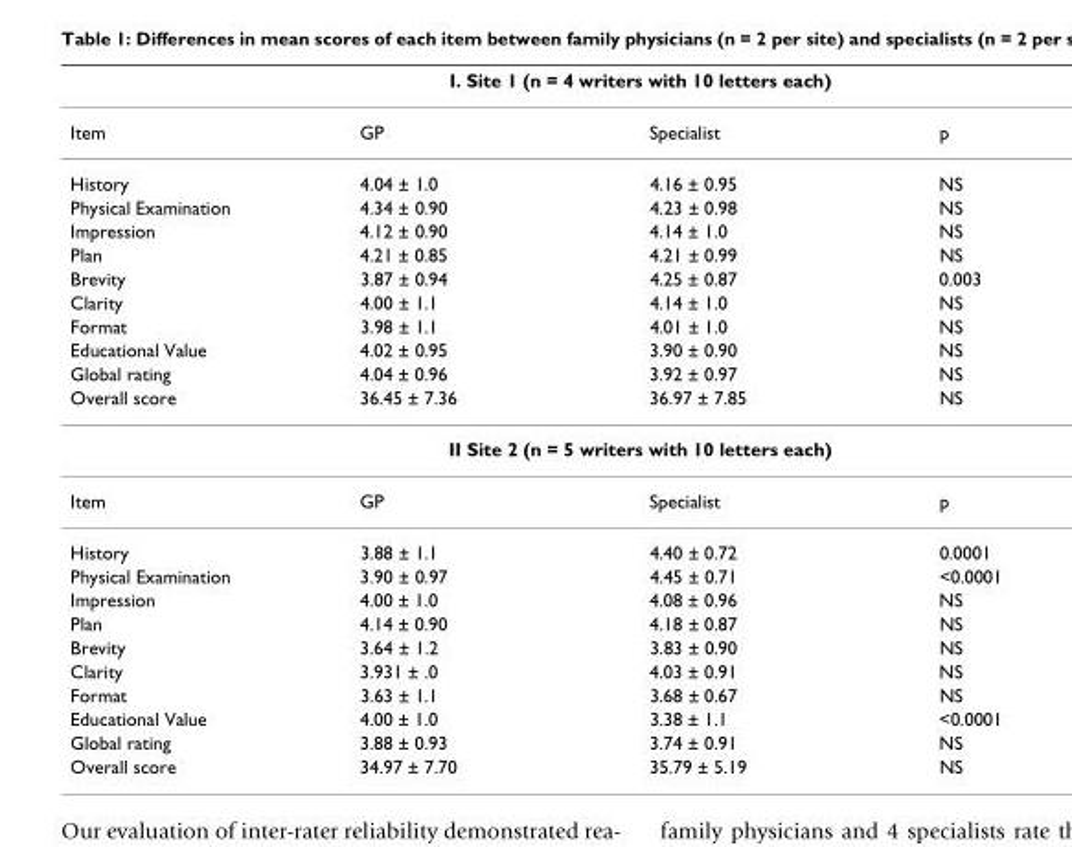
<table><thead><tr><td colspan="4">I. Site 1 (n = 4 writers with 10 letters each)</td></tr><tr><td>Item</td><td>GP</td><td>Specialist</td><td>p</td></tr></thead><tbody><tr><td>History</td><td>4.04 ± 1.0</td><td>4.16 ± 0.95</td><td>NS</td></tr><tr><td>Physical Examination</td><td>4.34 ± 0.90</td><td>4.23 ± 0.98</td><td>NS</td></tr><tr><td>Impression</td><td>4.12 ± 0.90</td><td>4.14 ± 1.0</td><td>NS</td></tr><tr><td>Plan</td><td>4.21 ± 0.85</td><td>4.21 ± 0.99</td><td>NS</td></tr><tr><td>Brevity</td><td>3.87 ± 0.94</td><td>4.25 ± 0.87</td><td>0.003</td></tr><tr><td>Clarity</td><td>4.00 ± 1.1</td><td>4.14 ± 1.0</td><td>NS</td></tr><tr><td>Format</td><td>3.98 ± 1.1</td><td>4.01 ± 1.0</td><td>NS</td></tr><tr><td>Educational Value</td><td>4.02 ± 0.95</td><td>3.90 ± 0.90</td><td>NS</td></tr><tr><td>Global rating</td><td>4.04 ± 0.96</td><td>3.92 ± 0.97</td><td>NS</td></tr><tr><td>Overall score</td><td>36.45 ± 7.36</td><td>36.97 ± 7.85</td><td>NS</td></tr><tr><td colspan="4">II Site 2 (n = 5 writers with 10 letters each)</td></tr><tr><td>Item</td><td>GP</td><td>Specialist</td><td>p</td></tr><tr><td>History</td><td>3.88 ± 1.1</td><td>4.40 ± 0.72</td><td>0.0001</td></tr><tr><td>Physical Examination</td><td>3.90 ± 0.97</td><td>4.45 ± 0.71</td><td>&lt;0.0001</td></tr><tr><td>Impression</td><td>4.00 ± 1.0</td><td>4.08 ± 0.96</td><td>NS</td></tr><tr><td>Plan</td><td>4.14 ± 0.90</td><td>4.18 ± 0.87</td><td>NS</td></tr><tr><td>Brevity</td><td>3.64 ± 1.2</td><td>3.83 ± 0.90</td><td>NS</td></tr><tr><td>Clarity</td><td>3.931 ± .0</td><td>4.03 ± 0.91</td><td>NS</td></tr><tr><td>Format</td><td>3.63 ± 1.1</td><td>3.68 ± 0.67</td><td>NS</td></tr><tr><td>Educational Value</td><td>4.00 ± 1.0</td><td>3.38 ± 1.1</td><td>&lt;0.0001</td></tr><tr><td>Global rating</td><td>3.88 ± 0.93</td><td>3.74 ± 0.91</td><td>NS</td></tr><tr><td>Overall score</td><td>34.97 ± 7.70</td><td>35.79 ± 5.19</td><td>NS</td></tr></tbody></table>